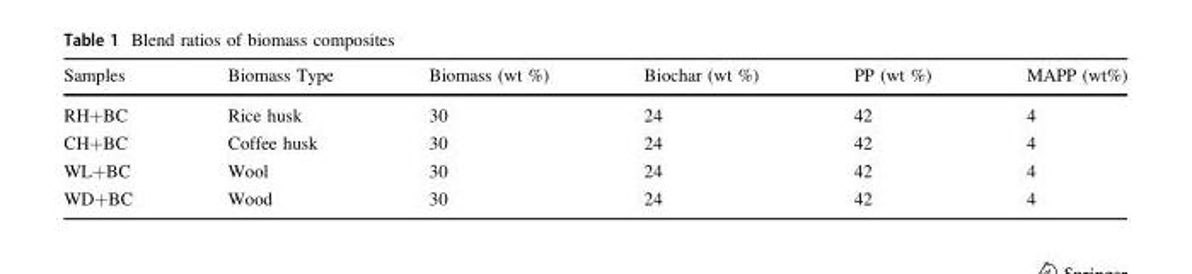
<table><thead><tr><td>Samples</td><td>Biomass Type</td><td>Biomass (wt %)</td><td>Biochar (wt %)</td><td>PP (wt %)</td><td>MAPP (wt%)</td></tr></thead><tbody><tr><td>RH+BC</td><td>Rice husk</td><td>30</td><td>24</td><td>42</td><td>4</td></tr><tr><td>CH+BC</td><td>Coffee husk</td><td>30</td><td>24</td><td>42</td><td>4</td></tr><tr><td>WL+BC</td><td>Wool</td><td>30</td><td>24</td><td>42</td><td>4</td></tr><tr><td>WD+BC</td><td>Wood</td><td>30</td><td>24</td><td>42</td><td>4</td></tr></tbody></table>